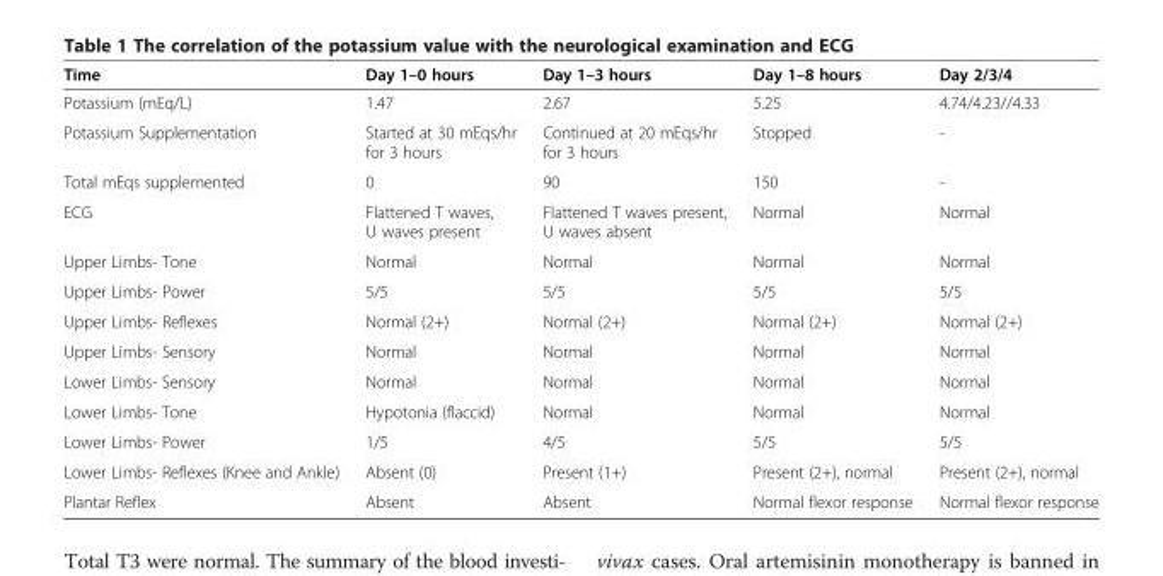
<table><thead><tr><td>Time</td><td>Day 1–0 hours</td><td>Day 1–3 hours</td><td>Day 1–8 hours</td><td>Day 2/3/4</td></tr></thead><tbody><tr><td>Potassium (mEq/L)</td><td>1.47</td><td>2.67</td><td>5.25</td><td>4.74/4.23//4.33</td></tr><tr><td>Potassium Supplementation</td><td>Started at 30 mEqs/hr for 3 hours</td><td>Continued at 20 mEqs/hr for 3 hours</td><td>Stopped</td><td>-</td></tr><tr><td>Total mEqs supplemented</td><td>0</td><td>90</td><td>150</td><td>-</td></tr><tr><td>ECG</td><td>Flattened T waves, U waves present</td><td>Flattened T waves present, U waves absent</td><td>Normal</td><td>Normal</td></tr><tr><td>Upper Limbs- Tone</td><td>Normal</td><td>Normal</td><td>Normal</td><td>Normal</td></tr><tr><td>Upper Limbs- Power</td><td>5/5</td><td>5/5</td><td>5/5</td><td>5/5</td></tr><tr><td>Upper Limbs- Reflexes</td><td>Normal (2+)</td><td>Normal (2+)</td><td>Normal (2+)</td><td>Normal (2+)</td></tr><tr><td>Upper Limbs- Sensory</td><td>Normal</td><td>Normal</td><td>Normal</td><td>Normal</td></tr><tr><td>Lower Limbs- Sensory</td><td>Normal</td><td>Normal</td><td>Normal</td><td>Normal</td></tr><tr><td>Lower Limbs- Tone</td><td>Hypotonia (flaccid)</td><td>Normal</td><td>Normal</td><td>Normal</td></tr><tr><td>Lower Limbs- Power</td><td>1/5</td><td>4/5</td><td>5/5</td><td>5/5</td></tr><tr><td>Lower Limbs- Reflexes (Knee and Ankle)</td><td>Absent (0)</td><td>Present (1+)</td><td>Present (2+), normal</td><td>Present (2+), normal</td></tr><tr><td>Plantar Reflex</td><td>Absent</td><td>Absent</td><td>Normal flexor response</td><td>Normal flexor response</td></tr></tbody></table>